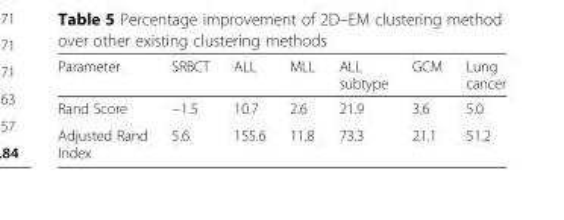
<table><thead><tr><td>Parameter</td><td>SRBCT</td><td>ALL</td><td>MLL</td><td>ALL subtype</td><td>GCM</td><td>Lung cancer</td></tr></thead><tbody><tr><td>Rand Score</td><td>−1.5</td><td>10.7</td><td>2.6</td><td>21.9</td><td>3.6</td><td>5.0</td></tr><tr><td>Adjusted Rand Index</td><td>5.6</td><td>155.6</td><td>11.8</td><td>73.3</td><td>21.1</td><td>51.2</td></tr></tbody></table>